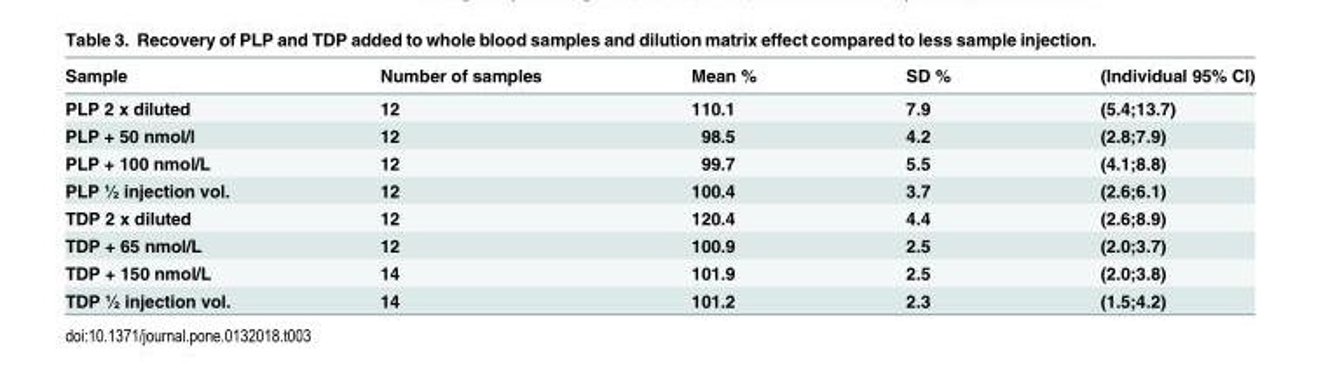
<table><thead><tr><td>Sample</td><td>Number of samples</td><td>Mean %</td><td>SD %</td><td>(Individual 95% CI)</td></tr></thead><tbody><tr><td>PLP 2 x diluted</td><td>12</td><td>110.1</td><td>7.9</td><td>(5.4;13.7)</td></tr><tr><td>PLP + 50 nmol/l</td><td>12</td><td>98.5</td><td>4.2</td><td>(2.8;7.9)</td></tr><tr><td>PLP + 100 nmol/L</td><td>12</td><td>99.7</td><td>5.5</td><td>(4.1;8.8)</td></tr><tr><td>PLP ½ injection vol.</td><td>12</td><td>100.4</td><td>3.7</td><td>(2.6;6.1)</td></tr><tr><td>TDP 2 x diluted</td><td>12</td><td>120.4</td><td>4.4</td><td>(2.6;8.9)</td></tr><tr><td>TDP + 65 nmol/L</td><td>12</td><td>100.9</td><td>2.5</td><td>(2.0;3.7)</td></tr><tr><td>TDP + 150 nmol/L</td><td>14</td><td>101.9</td><td>2.5</td><td>(2.0;3.8)</td></tr><tr><td>TDP ½ injection vol.</td><td>14</td><td>101.2</td><td>2.3</td><td>(1.5;4.2)</td></tr></tbody></table>